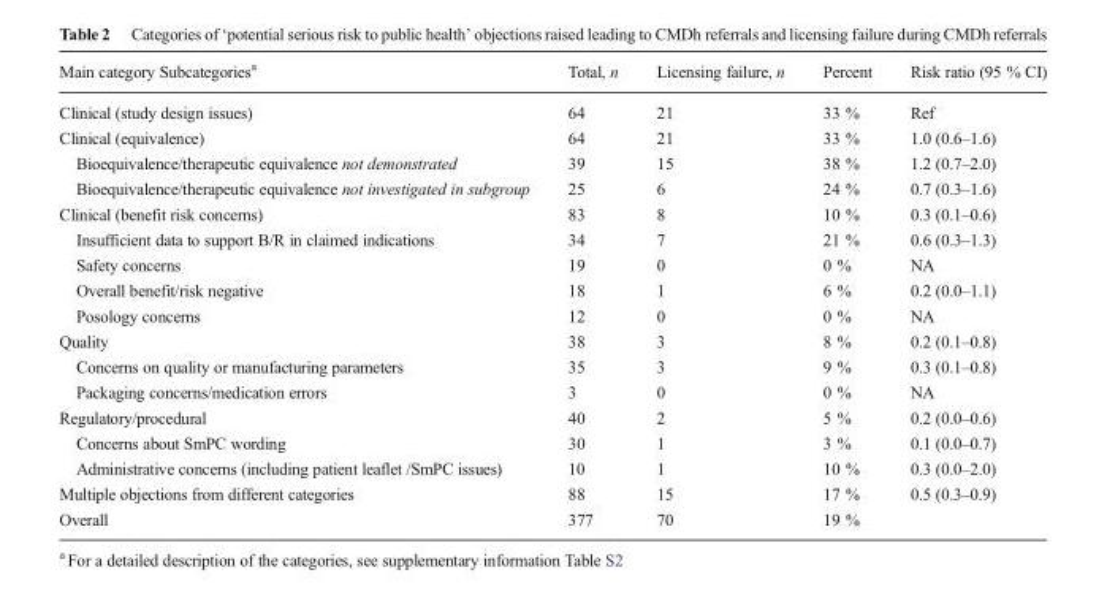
<table><thead><tr><td>Main category Subcategories<sup>a</sup></td><td>Total, n</td><td>Licensing failure, n</td><td>Percent</td><td>Risk ratio (95 % CI)</td></tr></thead><tbody><tr><td>Clinical (study design issues)</td><td>64</td><td>21</td><td>33 %</td><td>Ref</td></tr><tr><td>Clinical (equivalence)</td><td>64</td><td>21</td><td>33 %</td><td>1.0 (0.6–1.6)</td></tr><tr><td>Bioequivalence/therapeutic equivalence not demonstrated</td><td>39</td><td>15</td><td>38 %</td><td>1.2 (0.7–2.0)</td></tr><tr><td>Bioequivalence/therapeutic equivalence not investigated in subgroup</td><td>25</td><td>6</td><td>24 %</td><td>0.7 (0.3–1.6)</td></tr><tr><td>Clinical (benefit risk concerns)</td><td>83</td><td>8</td><td>10 %</td><td>0.3 (0.1–0.6)</td></tr><tr><td>Insufficient data to support B/R in claimed indications</td><td>34</td><td>7</td><td>21 %</td><td>0.6 (0.3–1.3)</td></tr><tr><td>Safety concerns</td><td>19</td><td>0</td><td>0 %</td><td>NA</td></tr><tr><td>Overall benefit/risk negative</td><td>18</td><td>1</td><td>6 %</td><td>0.2 (0.0–1.1)</td></tr><tr><td>Posology concerns</td><td>12</td><td>0</td><td>0 %</td><td>NA</td></tr><tr><td>Quality</td><td>38</td><td>3</td><td>8 %</td><td>0.2 (0.1–0.8)</td></tr><tr><td>Concerns on quality or manufacturing parameters</td><td>35</td><td>3</td><td>9 %</td><td>0.3 (0.1–0.8)</td></tr><tr><td>Packaging concerns/medication errors</td><td>3</td><td>0</td><td>0 %</td><td>NA</td></tr><tr><td>Regulatory/procedural</td><td>40</td><td>2</td><td>5 %</td><td>0.2 (0.0–0.6)</td></tr><tr><td>Concerns about SmPC wording</td><td>30</td><td>1</td><td>3 %</td><td>0.1 (0.0–0.7)</td></tr><tr><td>Administrative concerns (including patient leaflet /SmPC issues)</td><td>10</td><td>1</td><td>10 %</td><td>0.3 (0.0–2.0)</td></tr><tr><td>Multiple objections from different categories</td><td>88</td><td>15</td><td>17 %</td><td>0.5 (0.3–0.9)</td></tr><tr><td>Overall</td><td>377</td><td>70</td><td>19 %</td><td></td></tr></tbody></table>